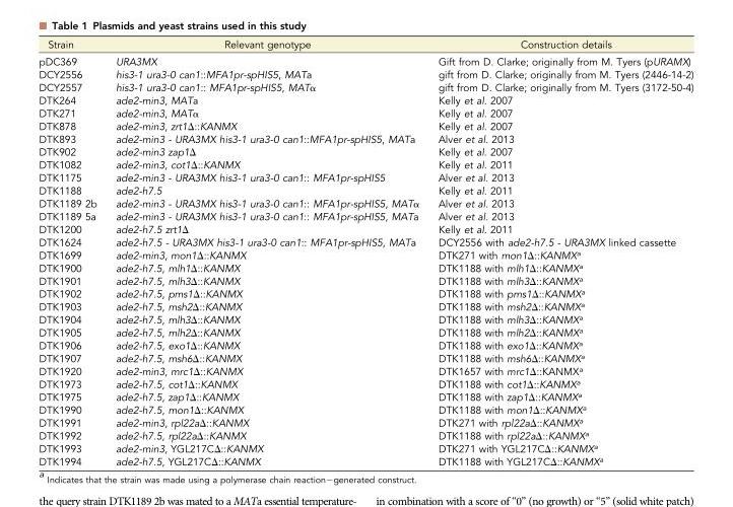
<table><thead><tr><td>Strain</td><td>Relevant genotype</td><td>Construction details</td></tr></thead><tbody><tr><td>pDC369</td><td>URA3MX</td><td>Gift from D. Clarke; originally from M. Tyers (pURAMX)</td></tr><tr><td>DCY2556</td><td>his3-1 ura3-0 can1::MFA1pr-spHIS5, MATa</td><td>gift from D. Clarke; originally from M. Tyers (2446-14-2)</td></tr><tr><td>DCY2557</td><td>his3-1 ura3-0 can1:: MFA1pr-spHIS5, MATα</td><td>gift from D. Clarke; originally from M. Tyers (3172-50-4)</td></tr><tr><td>DTK264</td><td>ade2-min3, MATa</td><td>Kelly et al. 2007</td></tr><tr><td>DTK271</td><td>ade2-min3, MATα</td><td>Kelly et al. 2007</td></tr><tr><td>DTK878</td><td>ade2-min3, zrt1Δ::KANMX</td><td>Kelly et al. 2007</td></tr><tr><td>DTK893</td><td>ade2-min3 - URA3MX his3-1 ura3-0 can1::MFA1pr-spHIS5, MATa</td><td>Alver et al. 2013</td></tr><tr><td>DTK902</td><td>ade2-min3 zap1Δ</td><td>Kelly et al. 2007</td></tr><tr><td>DTK1082</td><td>ade2-min3, cot1Δ::KANMX</td><td>Kelly et al. 2011</td></tr><tr><td>DTK1175</td><td>ade2-min3 - URA3MX his3-1 ura3-0 can1:: MFA1pr-spHIS5</td><td>Alver et al. 2013</td></tr><tr><td>DTK1188</td><td>ade2-h7.5</td><td>Kelly et al. 2011</td></tr><tr><td>DTK1189 2b</td><td>ade2-min3 - URA3MX his3-1 ura3-0 can1:: MFA1pr-spHIS5, MATα</td><td>Alver et al. 2013</td></tr><tr><td>DTK1189 5a</td><td>ade2-min3 - URA3MX his3-1 ura3-0 can1:: MFA1pr-spHIS5, MATa</td><td>Alver et al. 2013</td></tr><tr><td>DTK1200</td><td>ade2-h7.5 zrt1Δ</td><td>Kelly et al. 2011</td></tr><tr><td>DTK1624</td><td>ade2-h7.5 - URA3MX his3-1 ura3-0 can1:: MFA1pr-spHIS5, MATa</td><td>DCY2556 with ade2-h7.5 - URA3MX linked cassette</td></tr><tr><td>DTK1699</td><td>ade2-min3, mon1Δ::KANMX</td><td>DTK271 with mon1Δ::KANMX<sup>a</sup></td></tr><tr><td>DTK1900</td><td>ade2-h7.5, mlh1Δ::KANMX</td><td>DTK1188 with mlh1Δ::KANMX<sup>a</sup></td></tr><tr><td>DTK1901</td><td>ade2-h7.5, mlh3Δ::KANMX</td><td>DTK1188 with mlh3Δ::KANMX<sup>a</sup></td></tr><tr><td>DTK1902</td><td>ade2-h7.5, pms1Δ::KANMX</td><td>DTK1188 with pms1Δ::KANMX<sup>a</sup></td></tr><tr><td>DTK1903</td><td>ade2-h7.5, msh2Δ::KANMX</td><td>DTK1188 with msh2Δ::KANMX<sup>a</sup></td></tr><tr><td>DTK1904</td><td>ade2-h7.5, mlh3Δ::KANMX</td><td>DTK1188 with mlh3Δ::KANMX<sup>a</sup></td></tr><tr><td>DTK1905</td><td>ade2-h7.5, mlh2Δ::KANMX</td><td>DTK1188 with mlh2Δ::KANMX<sup>a</sup></td></tr><tr><td>DTK1906</td><td>ade2-h7.5, exo1Δ::KANMX</td><td>DTK1188 with exo1Δ::KANMX<sup>a</sup></td></tr><tr><td>DTK1907</td><td>ade2-h7.5, msh6Δ::KANMX</td><td>DTK1188 with msh6Δ::KANMX<sup>a</sup></td></tr><tr><td>DTK1920</td><td>ade2-min3, mrc1Δ::KANMX</td><td>DTK1657 with mrc1Δ::KANMX<sup>a</sup></td></tr><tr><td>DTK1973</td><td>ade2-h7.5, cot1Δ::KANMX</td><td>DTK1188 with cot1Δ::KANMX<sup>a</sup></td></tr><tr><td>DTK1975</td><td>ade2-h7.5, zap1Δ::KANMX</td><td>DTK1188 with zap1Δ::KANMX<sup>a</sup></td></tr><tr><td>DTK1990</td><td>ade2-h7.5, mon1Δ::KANMX</td><td>DTK1188 with mon1Δ::KANMX<sup>a</sup></td></tr><tr><td>DTK1991</td><td>ade2-min3, rpl22aΔ::KANMX</td><td>DTK271 with rpl22aΔ::KANMX<sup>a</sup></td></tr><tr><td>DTK1992</td><td>ade2-h7.5, rpl22aΔ::KANMX</td><td>DTK1188 with rpl22aΔ::KANMX<sup>a</sup></td></tr><tr><td>DTK1993</td><td>ade2-min3, YGL217CΔ::KANMX</td><td>DTK271 with YGL217CΔ::KANMX<sup>a</sup></td></tr><tr><td>DTK1994</td><td>ade2-h7.5, YGL217CΔ::KANMX</td><td>DTK1188 with YGL217CΔ::KANMX<sup>a</sup></td></tr></tbody></table>